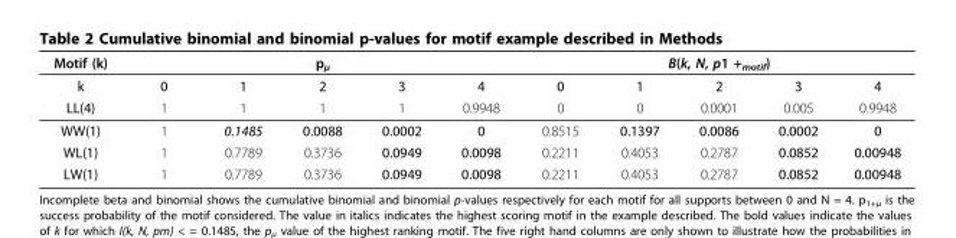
<table><thead><tr><td rowspan="2">Motif (k) k</td><td colspan="5">p<sub>μ</sub></td><td colspan="5">B(k, N, p1 +<sub>motif</sub>)</td></tr><tr><td>0</td><td>1</td><td>2</td><td>3</td><td>4</td><td>0</td><td>1</td><td>2</td><td>3</td><td>4</td></tr></thead><tbody><tr><td>LL(4)</td><td>1</td><td>1</td><td>1</td><td>1</td><td>0.9948</td><td>0</td><td>0</td><td>0.0001</td><td>0.005</td><td>0.9948</td></tr><tr><td>WW(1)</td><td>1</td><td>0.1485</td><td>0.0088</td><td>0.0002</td><td>0</td><td>0.8515</td><td>0.1397</td><td>0.0086</td><td>0.0002</td><td>0</td></tr><tr><td>WL(1)</td><td>1</td><td>0.7789</td><td>0.3736</td><td>0.0949</td><td>0.0098</td><td>0.2211</td><td>0.4053</td><td>0.2787</td><td>0.0852</td><td>0.00948</td></tr><tr><td>LW(1)</td><td>1</td><td>0.7789</td><td>0.3736</td><td>0.0949</td><td>0.0098</td><td>0.2211</td><td>0.4053</td><td>0.2787</td><td>0.0852</td><td>0.00948</td></tr></tbody></table>